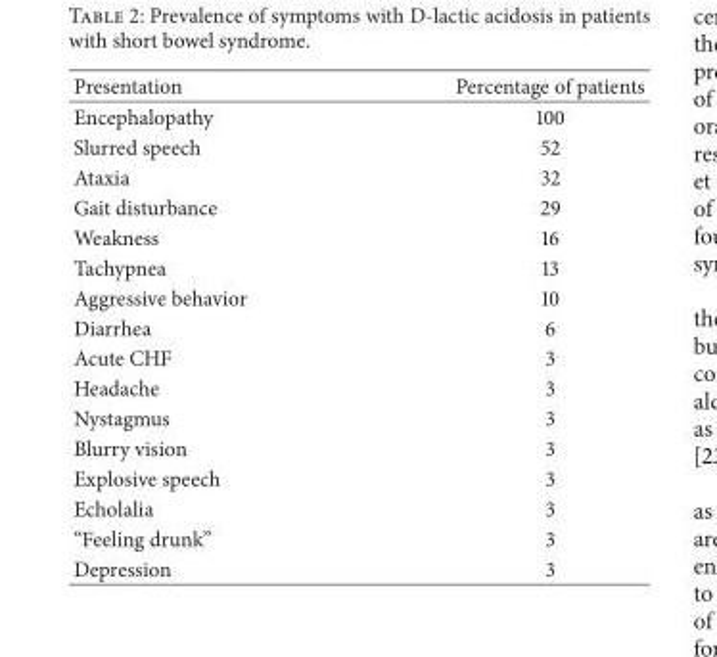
<table><thead><tr><td>Presentation</td><td>Percentage of patients</td></tr></thead><tbody><tr><td>Encephalopathy</td><td>100</td></tr><tr><td>Slurred speech</td><td>52</td></tr><tr><td>Ataxia</td><td>32</td></tr><tr><td>Gait disturbance</td><td>29</td></tr><tr><td>Weakness</td><td>16</td></tr><tr><td>Tachypnea</td><td>13</td></tr><tr><td>Aggressive behavior</td><td>10</td></tr><tr><td>Diarrhea</td><td>6</td></tr><tr><td>Acute CHF</td><td>3</td></tr><tr><td>Headache</td><td>3</td></tr><tr><td>Nystagmus</td><td>3</td></tr><tr><td>Blurry vision</td><td>3</td></tr><tr><td>Explosive speech</td><td>3</td></tr><tr><td>Echolalia</td><td>3</td></tr><tr><td>“Feeling drunk”</td><td>3</td></tr><tr><td>Depression</td><td>3</td></tr></tbody></table>